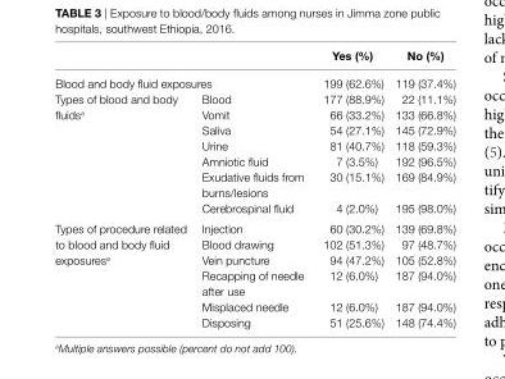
<table><thead><tr><td></td><td></td><td>Yes (%)</td><td>no (%)</td></tr></thead><tbody><tr><td colspan="2">Blood and body fluid exposures</td><td>199 (62.6%)</td><td>119 (37.4%)</td></tr><tr><td rowspan="7">Types of blood and body fluids<sup>a</sup></td><td>Blood</td><td>177 (88.9%)</td><td>22 (11.1%)</td></tr><tr><td>Vomit</td><td>66 (33.2%)</td><td>133 (66.8%)</td></tr><tr><td>Saliva</td><td>54 (27.1%)</td><td>145 (72.9%)</td></tr><tr><td>Urine</td><td>81 (40.7%)</td><td>118 (59.3%)</td></tr><tr><td>Amniotic fluid</td><td>7 (3.5%)</td><td>192 (96.5%)</td></tr><tr><td>Exudative fluids from burns/lesions</td><td>30 (15.1%)</td><td>169 (84.9%)</td></tr><tr><td>Cerebrospinal fluid</td><td>4 (2.0%)</td><td>195 (98.0%)</td></tr><tr><td rowspan="6">Types of procedure related to blood and body fluid exposures<sup>a</sup></td><td>Injection</td><td>60 (30.2%)</td><td>139 (69.8%)</td></tr><tr><td>Blood drawing</td><td>102 (51.3%)</td><td>97 (48.7%)</td></tr><tr><td>Vein puncture</td><td>94 (47.2%)</td><td>105 (52.8%)</td></tr><tr><td>Recapping of needle after use</td><td>12 (6.0%)</td><td>187 (94.0%)</td></tr><tr><td>Misplaced needle</td><td>12 (6.0%)</td><td>187 (94.0%)</td></tr><tr><td>Disposing</td><td>51 (25.6%)</td><td>148 (74.4%)</td></tr></tbody></table>